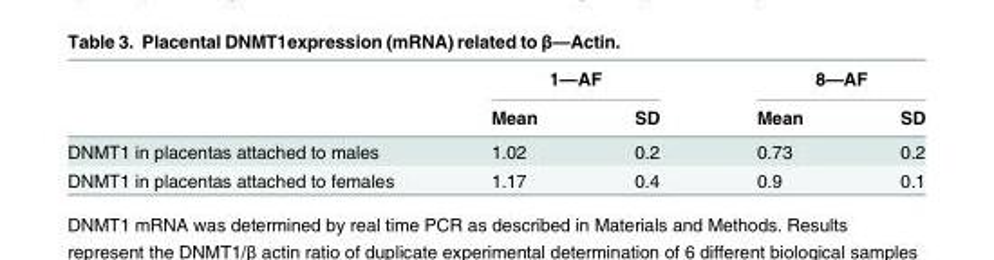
<table><thead><tr><td rowspan="2"></td><td colspan="2">1—AF</td><td colspan="2">8—AF</td></tr><tr><td>Mean</td><td>SD</td><td>Mean</td><td>SD</td></tr></thead><tbody><tr><td>DNMT1 in placentas attached to males</td><td>1.02</td><td>0.2</td><td>0.73</td><td>0.2</td></tr><tr><td>DNMT1 in placentas attached to females</td><td>1.17</td><td>0.4</td><td>0.9</td><td>0.1</td></tr></tbody></table>